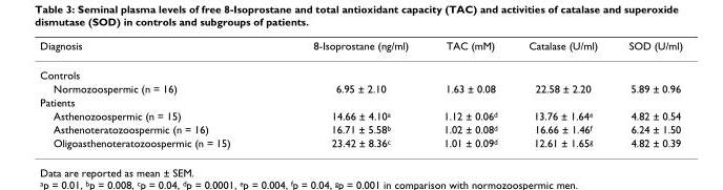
<table><thead><tr><td>Diagnosis</td><td>8-Isoprostane (ng/ml)</td><td>TAC (mM)</td><td>Catalase (U/ml)</td><td>SOD (U/ml)</td></tr></thead><tbody><tr><td colspan="5">Controls</td></tr><tr><td>Normozoospermic (n = 16)</td><td>6.95 ± 2.10</td><td>1.63 ± 0.08</td><td>22.58 ± 2.20</td><td>5.89 ± 0.96</td></tr><tr><td colspan="5">Patients</td></tr><tr><td>Asthenozoospermic (n = 15)</td><td>14.66 ± 4.10<sup>a</sup></td><td>1.12 ± 0.06<sup>d</sup></td><td>13.76 ± 1.64<sup>e</sup></td><td>4.82 ± 0.54</td></tr><tr><td>Asthenoteratozoospermic (n = 16)</td><td>16.71 ± 5.58<sup>b</sup></td><td>1.02 ± 0.08<sup>d</sup></td><td>16.66 ± 1.46<sup>f</sup></td><td>6.24 ± 1.50</td></tr><tr><td>Oligoasthenoteratozoospermic (n = 15)</td><td>23.42 ± 8.36<sup>c</sup></td><td>1.01 ± 0.09<sup>d</sup></td><td>12.61 ± 1.65<sup>g</sup></td><td>4.82 ± 0.39</td></tr></tbody></table>